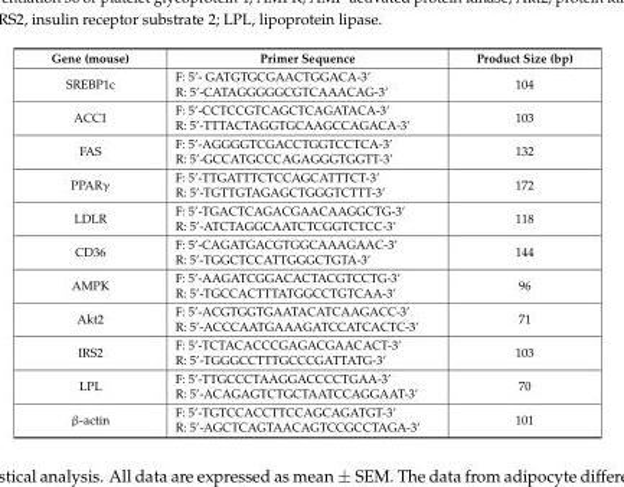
<table><thead><tr><td>Gene (mouse)</td><td>Primer Sequence</td><td>Product Size (bp)</td></tr></thead><tbody><tr><td>SREBP1c</td><td>F: 5’- GATGTGCGAACTGGACA-3’ R: 5’-CATAGGGGGCGTCAAACAG-3’</td><td>104</td></tr><tr><td>ACC1</td><td>F: 5’-CCTCCGTCAGCTCAGATACA-3’ R: 5’-TTTACTAGGTGCAAGCCAGACA-3’</td><td>103</td></tr><tr><td>FAS</td><td>F: 5’-AGGGGTCGACCTGGTCCTCA-3’ R: 5’-GCCATGCCCAGAGGGTGGTT-3’</td><td>132</td></tr><tr><td>PPARγ</td><td>F: 5’-TTGATTTCTCCAGCATTTCT-3’ R: 5’-TGTTGTAGAGCTGGGTCTTT-3’</td><td>172</td></tr><tr><td>LDLR</td><td>F: 5’-TGACTCAGACGAACAAGGCTG-3’ R: 5’-ATCTAGGCAATCTCGGTCTCC-3’</td><td>118</td></tr><tr><td>CD36</td><td>F: 5’-CAGATGACGTGGCAAAGAAC-3’ R: 5’-TGGCTCCATTGGGCTGTA-3’</td><td>144</td></tr><tr><td>AMPK</td><td>F: 5’-AAGATCGGACACTACGTCCTG-3’ R: 5’-TGCCACTTTATGGCCTGTCAA-3’</td><td>96</td></tr><tr><td>Akt2</td><td>F: 5’-ACGTGGTGAATACATCAAGACC-3’ R: 5’-ACCCAATGAAAGATCCATCACTC-3’</td><td>71</td></tr><tr><td>IRS2</td><td>F: 5’-TCTACACCCGAGACGAACACT-3’ R: 5’-TGGGCCTTTGCCCGATTATG-3’</td><td>103</td></tr><tr><td>LPL</td><td>F: 5’-TTGCCCTAAGGACCCCTGAA-3’ R: 5’-ACAGAGTCTGCTAATCCAGGAAT-3’</td><td>70</td></tr><tr><td>β-actin</td><td>F: 5’-TGTCCACCTTCCAGCAGATGT-3’ R: 5’-AGCTCAGTAACAGTCCGCCTAGA-3’</td><td>101</td></tr></tbody></table>